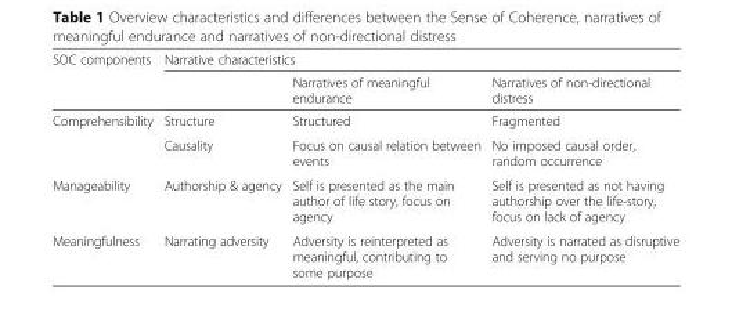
<table><thead><tr><td rowspan="2">SOC components</td><td colspan="3">Narrative characteristics</td></tr><tr><td></td><td>Narratives of meaningful endurance</td><td>Narratives of non-directional distress</td></tr></thead><tbody><tr><td rowspan="2">Comprehensibility</td><td>Structure</td><td>Structured</td><td>Fragmented</td></tr><tr><td>Causality</td><td>Focus on causal relation between events</td><td>No imposed causal order, random occurrence</td></tr><tr><td>Manageability</td><td>Authorship &amp; agency</td><td>Self is presented as the main author of life story, focus on agency</td><td>Self is presented as not having authorship over the life-story, focus on lack of agency</td></tr><tr><td>Meaningfulness</td><td>Narrating adversity</td><td>Adversity is reinterpreted as meaningful, contributing to some purpose</td><td>Adversity is narrated as disruptive and serving no purpose</td></tr></tbody></table>